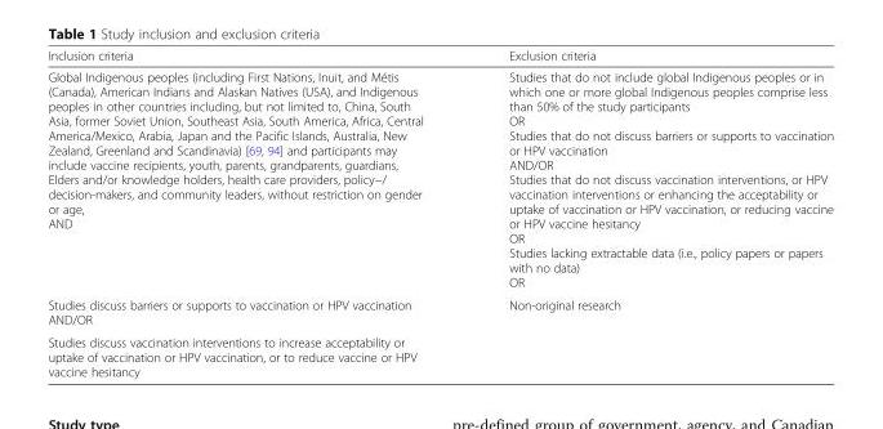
<table><thead><tr><td>Inclusion criteria</td><td>Exclusion criteria</td></tr></thead><tbody><tr><td>Global Indigenous peoples (including First Nations, Inuit, and Métis (Canada), American Indians and Alaskan Natives (USA), and Indigenous peoples in other countries including, but not limited to, China, South Asia, former Soviet Union, Southeast Asia, South America, Africa, Central America/Mexico, Arabia, Japan and the Pacific Islands, Australia, New Zealand, Greenland and Scandinavia) [69, 94] and participants may include vaccine recipients, youth, parents, grandparents, guardians, Elders and/or knowledge holders, health care providers, policy−/ decision-makers, and community leaders, without restriction on gender or age, AND</td><td>Studies that do not include global Indigenous peoples or in which one or more global Indigenous peoples comprise less than 50% of the study participants OR Studies that do not discuss barriers or supports to vaccination or HPV vaccination AND/OR Studies that do not discuss vaccination interventions, or HPV vaccination interventions or enhancing the acceptability or uptake of vaccination or HPV vaccination, or reducing vaccine or HPV vaccine hesitancy OR Studies lacking extractable data (i.e., policy papers or papers with no data) OR</td></tr><tr><td>Studies discuss barriers or supports to vaccination or HPV vaccination AND/OR</td><td>Non-original research</td></tr><tr><td>Studies discuss vaccination interventions to increase acceptability or uptake of vaccination or HPV vaccination, or to reduce vaccine or HPV vaccine hesitancy</td><td></td></tr></tbody></table>